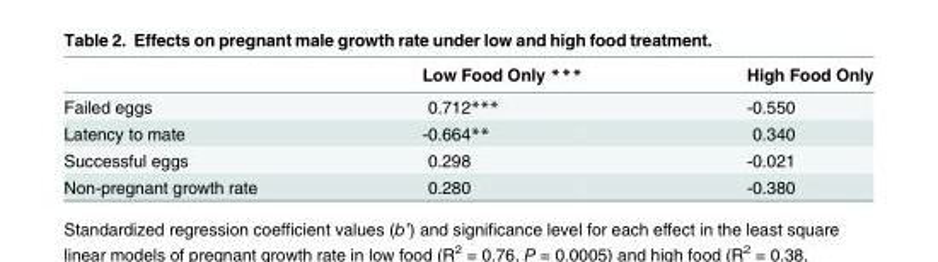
<table><thead><tr><td></td><td>Low Food Only ***</td><td>High Food Only</td></tr></thead><tbody><tr><td>Failed eggs</td><td>0.712***</td><td>-0.550</td></tr><tr><td>Latency to mate</td><td>-0.664**</td><td>0.340</td></tr><tr><td>Successful eggs</td><td>0.298</td><td>-0.021</td></tr><tr><td>Non-pregnant growth rate</td><td>0.280</td><td>-0.380</td></tr></tbody></table>